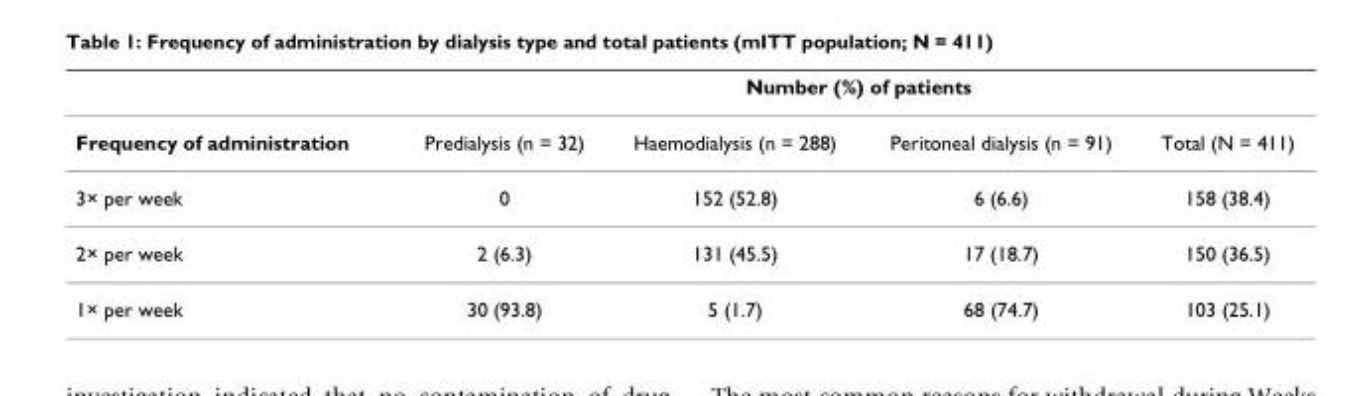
<table><thead><tr><td rowspan="2">Frequency of administration</td><td colspan="4">Number (%) of patients</td></tr><tr><td>Predialysis (n = 32)</td><td>Haemodialysis (n = 288)</td><td>Peritoneal dialysis (n = 91)</td><td>Total (N = 411)</td></tr></thead><tbody><tr><td>3× per week</td><td>0</td><td>152 (52.8)</td><td>6 (6.6)</td><td>158 (38.4)</td></tr><tr><td>2× per week</td><td>2 (6.3)</td><td>131 (45.5)</td><td>17 (18.7)</td><td>150 (36.5)</td></tr><tr><td>1× per week</td><td>30 (93.8)</td><td>5 (1.7)</td><td>68 (74.7)</td><td>103 (25.1)</td></tr></tbody></table>